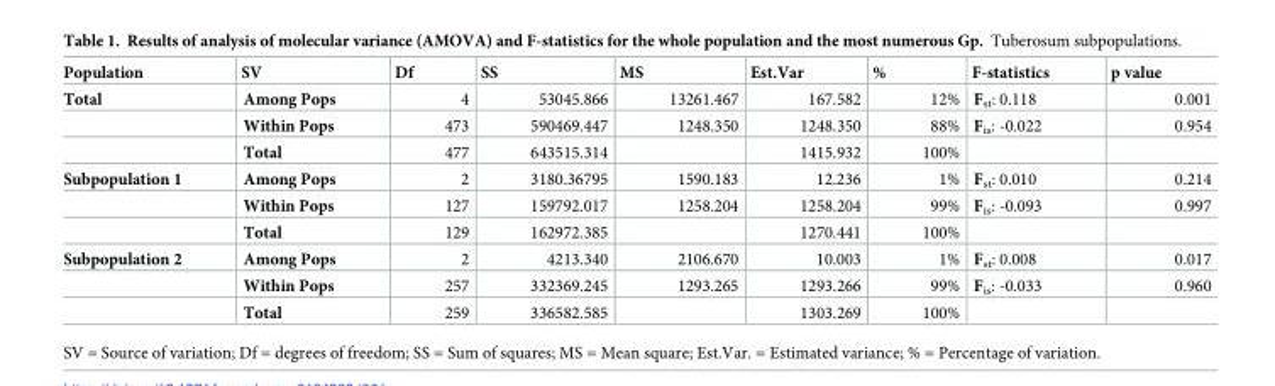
<table><thead><tr><td>Population</td><td>SV</td><td>Df</td><td>SS</td><td>MS</td><td>Est.Var</td><td>%</td><td>F-statistics</td><td>p value</td></tr></thead><tbody><tr><td rowspan="3">Total</td><td>Among Pops</td><td>4</td><td>53045.866</td><td>13261.467</td><td>167.582</td><td>12%</td><td>F<sub>st</sub>: 0.118</td><td>0.001</td></tr><tr><td>Within Pops</td><td>473</td><td>590469.447</td><td>1248.350</td><td>1248.350</td><td>88%</td><td>F<sub>is</sub>: -0.022</td><td>0.954</td></tr><tr><td>Total</td><td>477</td><td>643515.314</td><td></td><td>1415.932</td><td>100%</td><td></td><td></td></tr><tr><td rowspan="3">Subpopulation 1</td><td>Among Pops</td><td>2</td><td>3180.36795</td><td>1590.183</td><td>12.236</td><td>1%</td><td>F<sub>st</sub>: 0.010</td><td>0.214</td></tr><tr><td>Within Pops</td><td>127</td><td>159792.017</td><td>1258.204</td><td>1258.204</td><td>99%</td><td>F<sub>is</sub>: -0.093</td><td>0.997</td></tr><tr><td>Total</td><td>129</td><td>162972.385</td><td></td><td>1270.441</td><td>100%</td><td></td><td></td></tr><tr><td rowspan="3">Subpopulation 2</td><td>Among Pops</td><td>2</td><td>4213.340</td><td>2106.670</td><td>10.003</td><td>1%</td><td>F<sub>st</sub>: 0.008</td><td>0.017</td></tr><tr><td>Within Pops</td><td>257</td><td>332369.245</td><td>1293.265</td><td>1293.266</td><td>99%</td><td>F<sub>is</sub>: -0.033</td><td>0.960</td></tr><tr><td>Total</td><td>259</td><td>336582.585</td><td></td><td>1303.269</td><td>100%</td><td></td><td></td></tr></tbody></table>